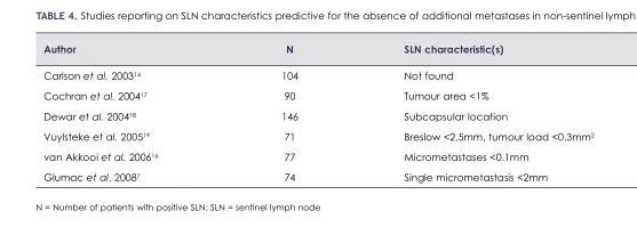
<table><thead><tr><td>Author</td><td>N</td><td>SLN characteristic(s)</td></tr></thead><tbody><tr><td>Carlson et al. 2003<sup>14</sup></td><td>104</td><td>Not found</td></tr><tr><td>Cochran et al. 2004<sup>17</sup></td><td>90</td><td>Tumour area &lt;1%</td></tr><tr><td>Dewar et al. 2004<sup>18</sup></td><td>146</td><td>Subcapsular location</td></tr><tr><td>Vuylsteke et al. 2005<sup>19</sup></td><td>71</td><td>Breslow &lt;2.5mm, tumour load &lt;0.3mm<sup>2</sup></td></tr><tr><td>van Akkooi et al. 2006<sup>16</sup></td><td>77</td><td>Micrometastases &lt;0.1mm</td></tr><tr><td>Glumac et al. 2008<sup>7</sup></td><td>74</td><td>Single micrometastasis &lt;2mm</td></tr></tbody></table>